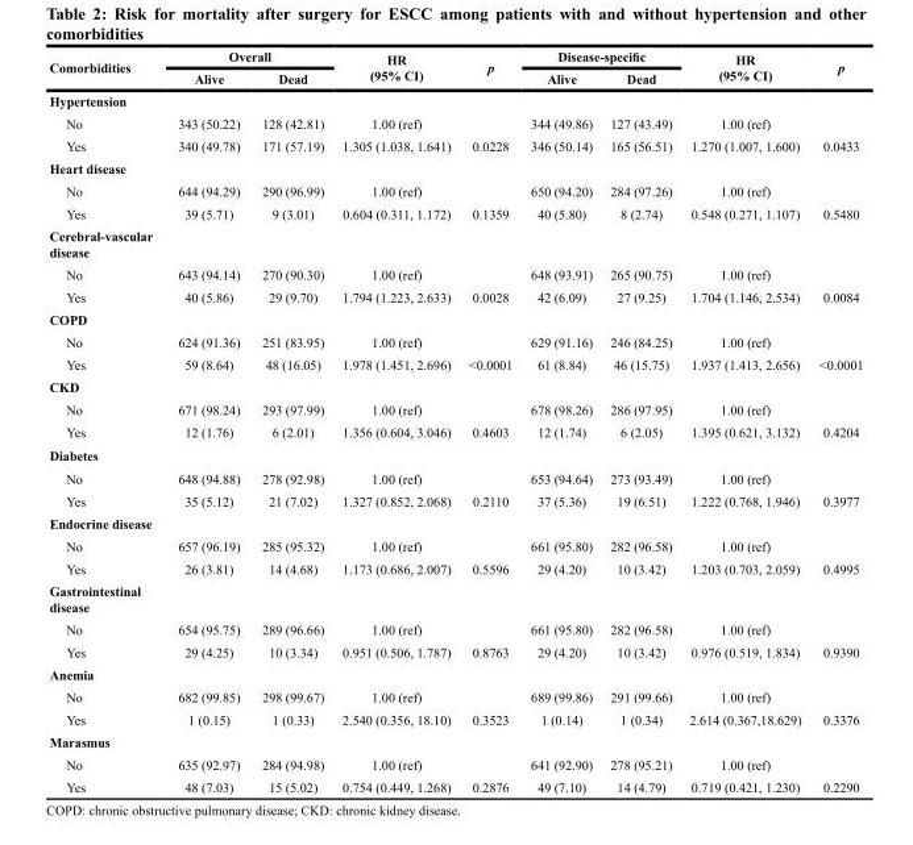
<table><thead><tr><td rowspan="2">Comorbidities</td><td colspan="2">Overall</td><td rowspan="2">HR (95% CI)</td><td rowspan="2">p</td><td colspan="2">Disease-specific</td><td rowspan="2">HR (95% CI)</td><td rowspan="2">p</td></tr><tr><td>Alive</td><td>Dead</td><td>Alive</td><td>Dead</td></tr></thead><tbody><tr><td colspan="9">Hypertension</td></tr><tr><td>No</td><td>343 (50.22)</td><td>128 (42.81)</td><td>1.00 (ref)</td><td></td><td>344 (49.86)</td><td>127 (43.49)</td><td>1.00 (ref)</td><td></td></tr><tr><td>Yes</td><td>340 (49.78)</td><td>171 (57.19)</td><td>1.305 (1.038, 1.641)</td><td>0.0228</td><td>346 (50.14)</td><td>165 (56.51)</td><td>1.270 (1.007, 1.600)</td><td>0.0433</td></tr><tr><td colspan="9">Heart disease</td></tr><tr><td>No</td><td>644 (94.29)</td><td>290 (96.99)</td><td>1.00 (ref)</td><td></td><td>650 (94.20)</td><td>284 (97.26)</td><td>1.00 (ref)</td><td></td></tr><tr><td>Yes</td><td>39 (5.71)</td><td>9 (3.01)</td><td>0.604 (0.311, 1.172)</td><td>0.1359</td><td>40 (5.80)</td><td>8 (2.74)</td><td>0.548 (0.271, 1.107)</td><td>0.5480</td></tr><tr><td colspan="9">Cerebral-vascular disease</td></tr><tr><td>No</td><td>643 (94.14)</td><td>270 (90.30)</td><td>1.00 (ref)</td><td></td><td>648 (93.91)</td><td>265 (90.75)</td><td>1.00 (ref)</td><td></td></tr><tr><td>Yes</td><td>40 (5.86)</td><td>29 (9.70)</td><td>1.794 (1.223, 2.633)</td><td>0.0028</td><td>42 (6.09)</td><td>27 (9.25)</td><td>1.704 (1.146, 2.534)</td><td>0.0084</td></tr><tr><td colspan="9">COPD</td></tr><tr><td>No</td><td>624 (91.36)</td><td>251 (83.95)</td><td>1.00 (ref)</td><td></td><td>629 (91.16)</td><td>246 (84.25)</td><td>1.00 (ref)</td><td></td></tr><tr><td>Yes</td><td>59 (8.64)</td><td>48 (16.05)</td><td>1.978 (1.451, 2.696)</td><td>&lt;0.0001</td><td>61 (8.84)</td><td>46 (15.75)</td><td>1.937 (1.413, 2.656)</td><td>&lt;0.0001</td></tr><tr><td colspan="9">CKD</td></tr><tr><td>No</td><td>671 (98.24)</td><td>293 (97.99)</td><td>1.00 (ref)</td><td></td><td>678 (98.26)</td><td>286 (97.95)</td><td>1.00 (ref)</td><td></td></tr><tr><td>Yes</td><td>12 (1.76)</td><td>6 (2.01)</td><td>1.356 (0.604, 3.046)</td><td>0.4603</td><td>12 (1.74)</td><td>6 (2.05)</td><td>1.395 (0.621, 3.132)</td><td>0.4204</td></tr><tr><td colspan="9">Diabetes</td></tr><tr><td>No</td><td>648 (94.88)</td><td>278 (92.98)</td><td>1.00 (ref)</td><td></td><td>653 (94.64)</td><td>273 (93.49)</td><td>1.00 (ref)</td><td></td></tr><tr><td>Yes</td><td>35 (5.12)</td><td>21 (7.02)</td><td>1.327 (0.852, 2.068)</td><td>0.2110</td><td>37 (5.36)</td><td>19 (6.51)</td><td>1.222 (0.768, 1.946)</td><td>0.3977</td></tr><tr><td colspan="9">Endocrine disease</td></tr><tr><td>No</td><td>657 (96.19)</td><td>285 (95.32)</td><td>1.00 (ref)</td><td></td><td>661 (95.80)</td><td>282 (96.58)</td><td>1.00 (ref)</td><td></td></tr><tr><td>Yes</td><td>26 (3.81)</td><td>14 (4.68)</td><td>1.173 (0.686, 2.007)</td><td>0.5596</td><td>29 (4.20)</td><td>10 (3.42)</td><td>1.203 (0.703, 2.059)</td><td>0.4995</td></tr><tr><td colspan="9">Gastrointestinal disease</td></tr><tr><td>No</td><td>654 (95.75)</td><td>289 (96.66)</td><td>1.00 (ref)</td><td></td><td>661 (95.80)</td><td>282 (96.58)</td><td>1.00 (ref)</td><td></td></tr><tr><td>Yes</td><td>29 (4.25)</td><td>10 (3.34)</td><td>0.951 (0.506, 1.787)</td><td>0.8763</td><td>29 (4.20)</td><td>10 (3.42)</td><td>0.976 (0.519, 1.834)</td><td>0.9390</td></tr><tr><td colspan="9">Anemia</td></tr><tr><td>No</td><td>682 (99.85)</td><td>298 (99.67)</td><td>1.00 (ref)</td><td></td><td>689 (99.86)</td><td>291 (99.66)</td><td>1.00 (ref)</td><td></td></tr><tr><td>Yes</td><td>1 (0.15)</td><td>1 (0.33)</td><td>2.540 (0.356, 18.10)</td><td>0.3523</td><td>1 (0.14)</td><td>1 (0.34)</td><td>2.614 (0.367,18.629)</td><td>0.3376</td></tr><tr><td colspan="9">Marasmus</td></tr><tr><td>No</td><td>635 (92.97)</td><td>284 (94.98)</td><td>1.00 (ref)</td><td></td><td>641 (92.90)</td><td>278 (95.21)</td><td>1.00 (ref)</td><td></td></tr><tr><td>Yes</td><td>48 (7.03)</td><td>15 (5.02)</td><td>0.754 (0.449, 1.268)</td><td>0.2876</td><td>49 (7.10)</td><td>14 (4.79)</td><td>0.719 (0.421, 1.230)</td><td>0.2290</td></tr></tbody></table>